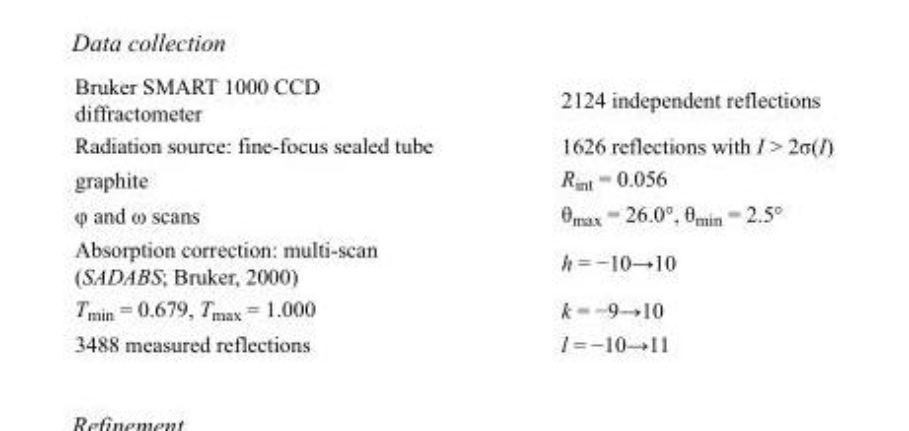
<table><tbody><tr><td>Bruker SMART 1000 CCD diffractometer</td><td>2124 independent reflections</td></tr><tr><td>Radiation source: fine-focus sealed tube</td><td>1626 reflections with I &gt; 2σ(I)</td></tr><tr><td>graphite</td><td>R<sub>int</sub> = 0.056</td></tr><tr><td>φ and ω scans</td><td>θ<sub>max</sub> = 26.0°, θ<sub>min</sub> = 2.5°</td></tr><tr><td>Absorption correction: multi-scan (SADABS; Bruker, 2000)</td><td>h = −10→10</td></tr><tr><td>T<sub>min</sub> = 0.679, T<sub>max</sub> = 1.000</td><td>k = −9→10</td></tr><tr><td>3488 measured reflections</td><td>l = −10→11</td></tr></tbody></table>